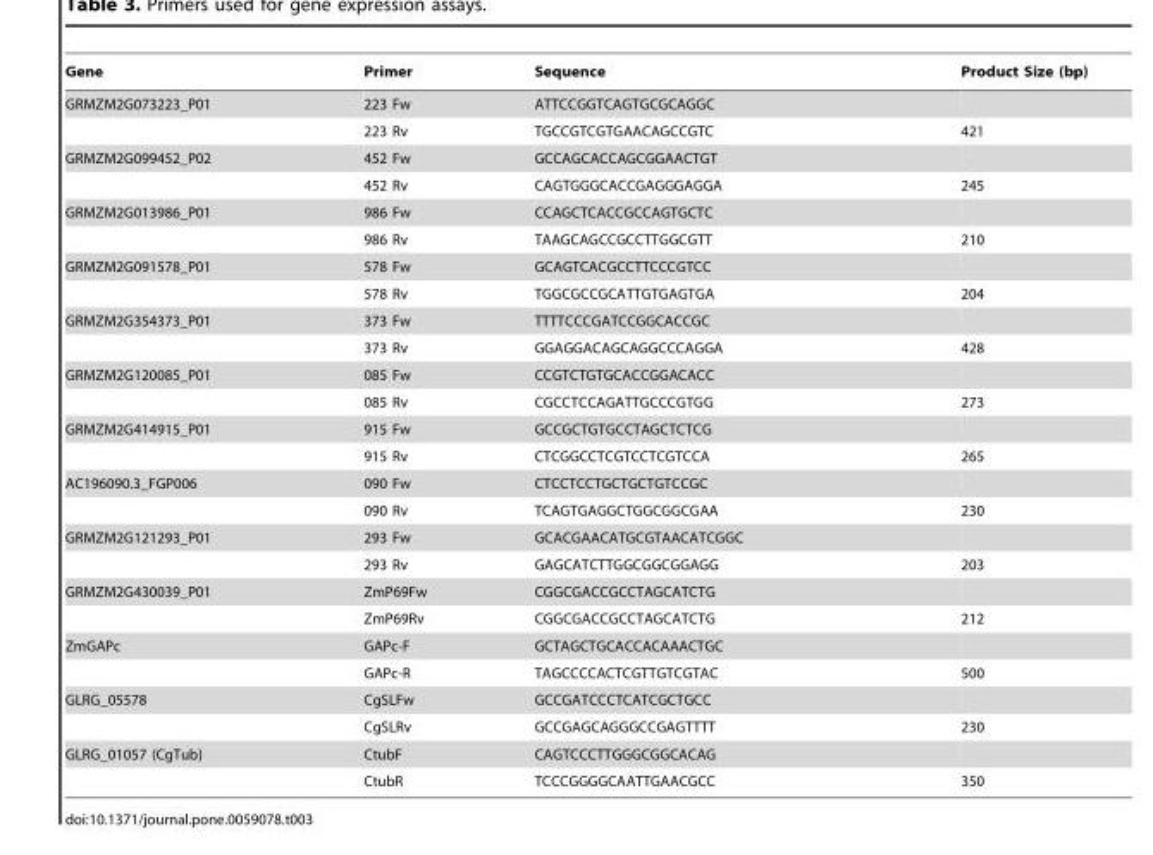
<table><thead><tr><td>Gene</td><td>Primer</td><td>Sequence</td><td>Product Size (bp)</td></tr></thead><tbody><tr><td rowspan="2">GRMZM2G073223_P01</td><td>223 Fw</td><td>ATTCCGGTCAGTGCGCAGGC</td><td></td></tr><tr><td>223 Rv</td><td>TGCCGTCGTGAACAGCCGTC</td><td>421</td></tr><tr><td rowspan="2">GRMZM2G099452_P02</td><td>452 Fw</td><td>GCCAGCACCAGCGGAACTGT</td><td></td></tr><tr><td>452 Rv</td><td>CAGTGGGCACCGAGGGAGGA</td><td>245</td></tr><tr><td rowspan="2">GRMZM2G013986_P01</td><td>986 Fw</td><td>CCAGCTCACCGCCAGTGCTC</td><td></td></tr><tr><td>986 Rv</td><td>TAAGCAGCCGCCTTGGCGTT</td><td>210</td></tr><tr><td rowspan="2">GRMZM2G091578_P01</td><td>578 Fw</td><td>GCAGTCACGCCTTCCCGTCC</td><td></td></tr><tr><td>578 Rv</td><td>TGGCGCCGCATTGTGAGTGA</td><td>204</td></tr><tr><td rowspan="2">GRMZM2G354373_P01</td><td>373 Fw</td><td>TTTTCCCGATCCGGCACCGC</td><td></td></tr><tr><td>373 Rv</td><td>GGAGGACAGCAGGCCCAGGA</td><td>428</td></tr><tr><td rowspan="2">GRMZM2G120085_P01</td><td>085 Fw</td><td>CCGTCTGTGCACCGGACACC</td><td></td></tr><tr><td>085 Rv</td><td>CGCCTCCAGATTGCCCGTGG</td><td>273</td></tr><tr><td rowspan="2">GRMZM2G414915_P01</td><td>915 Fw</td><td>GCCGCTGTGCCTAGCTCTCG</td><td></td></tr><tr><td>915 Rv</td><td>CTCGGCCTCGTCCTCGTCCA</td><td>265</td></tr><tr><td rowspan="2">AC196090.3_FGP006</td><td>090 Fw</td><td>CTCCTCCTGCTGCTGTCCGC</td><td></td></tr><tr><td>090 Rv</td><td>TCAGTGAGGCTGGCGGCGAA</td><td>230</td></tr><tr><td rowspan="2">GRMZM2G121293_P01</td><td>293 Fw</td><td>GCACGAACATGCGTAACATCGGC</td><td></td></tr><tr><td>293 Rv</td><td>GAGCATCTTGGCGGCGGAGG</td><td>203</td></tr><tr><td rowspan="2">GRMZM2G430039_P01</td><td>ZmP69Fw</td><td>CGGCGACCGCCTAGCATCTG</td><td></td></tr><tr><td>ZmP69Rv</td><td>CGGCGACCGCCTAGCATCTG</td><td>212</td></tr><tr><td rowspan="2">ZmGAPc</td><td>GAPc-F</td><td>GCTAGCTGCACCACAAACTGC</td><td></td></tr><tr><td>GAPc-R</td><td>TAGCCCCACTCGTTGTCGTAC</td><td>500</td></tr><tr><td rowspan="2">GLRG_05578</td><td>CgSLFw</td><td>GCCGATCCCTCATCGCTGCC</td><td></td></tr><tr><td>CgSLRv</td><td>GCCGAGCAGGGCCGAGTTTT</td><td>230</td></tr><tr><td rowspan="2">GLRG_01057 (CgTub)</td><td>CtubF</td><td>CAGTCCCTTGGGCGGCACAG</td><td></td></tr><tr><td>CtubR</td><td>TCCCGGGGCAATTGAACGCC</td><td>350</td></tr></tbody></table>